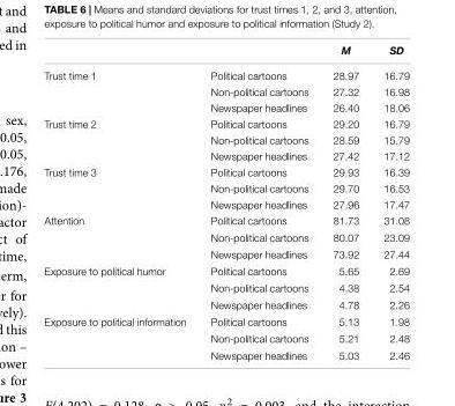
<table><thead><tr><td></td><td></td><td>M</td><td>SD</td></tr></thead><tbody><tr><td rowspan="3">Trust time 1</td><td>Political cartoons</td><td>28.97</td><td>16.79</td></tr><tr><td>Non-political cartoons</td><td>27.32</td><td>16.98</td></tr><tr><td>Newspaper headlines</td><td>26.40</td><td>18.06</td></tr><tr><td rowspan="3">Trust time 2</td><td>Political cartoons</td><td>29.20</td><td>16.79</td></tr><tr><td>Non-political cartoons</td><td>28.59</td><td>15.79</td></tr><tr><td>Newspaper headlines</td><td>27.42</td><td>17.12</td></tr><tr><td rowspan="3">Trust time 3</td><td>Political cartoons</td><td>29.93</td><td>16.39</td></tr><tr><td>Non-political cartoons</td><td>29.70</td><td>16.53</td></tr><tr><td>Newspaper headlines</td><td>27.96</td><td>17.47</td></tr><tr><td rowspan="3">Attention</td><td>Political cartoons</td><td>81.73</td><td>31.08</td></tr><tr><td>Non-political cartoons</td><td>80.07</td><td>23.09</td></tr><tr><td>Newspaper headlines</td><td>73.92</td><td>27.44</td></tr><tr><td rowspan="3">Exposure to political humor</td><td>Political cartoons</td><td>5.65</td><td>2.69</td></tr><tr><td>Non-political cartoons</td><td>4.38</td><td>2.54</td></tr><tr><td>Newspaper headlines</td><td>4.78</td><td>2.26</td></tr><tr><td rowspan="3">Exposure to political information</td><td>Political cartoons</td><td>5.13</td><td>1.98</td></tr><tr><td>Non-political cartoons</td><td>5.21</td><td>2.48</td></tr><tr><td>Newspaper headlines</td><td>5.03</td><td>2.46</td></tr></tbody></table>